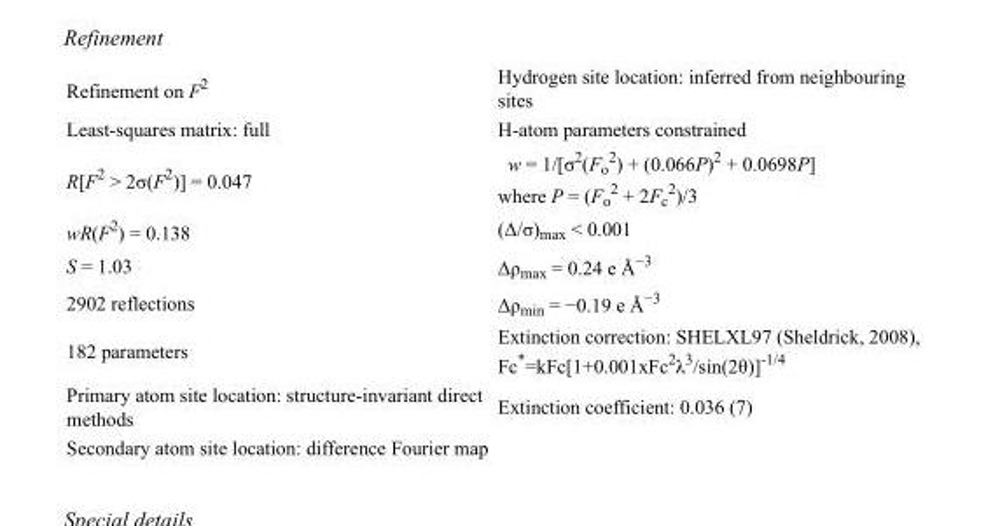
<table><tbody><tr><td>Refinement on F<sup>2</sup></td><td>Hydrogen site location: inferred from neighbouring sites</td></tr><tr><td>Least-squares matrix: full</td><td>H-atom parameters constrained</td></tr><tr><td>R[F<sup>2</sup> &gt; 2σ(F<sup>2</sup>)] = 0.047</td><td>w = 1/[σ<sup>2</sup>(F<sub>o</sub> <sup>2</sup>) + (0.066P)<sup>2</sup> + 0.0698P] where P = (F<sub>o</sub> <sup>2</sup> + 2F<sub>c</sub> <sup>2</sup>)/3</td></tr><tr><td>wR(F<sup>2</sup>) = 0.138</td><td>(Δ/σ)<sub>max</sub> &lt; 0.001</td></tr><tr><td>S = 1.03</td><td>Δρ<sub>max</sub> = 0.24 e Å<sup>−3</sup></td></tr><tr><td>2902 reflections</td><td>Δρ<sub>min</sub> = −0.19 e Å<sup>−3</sup></td></tr><tr><td>182 parameters</td><td>Extinction correction: SHELXL97 (Sheldrick, 2008), Fc*=kFc[1+0.001xFc<sup>2</sup>λ<sup>3</sup>/sin(2θ)]<sup>-1/4</sup></td></tr><tr><td>Primary atom site location: structure-invariant direct methods</td><td>Extinction coefficient: 0.036 (7)</td></tr><tr><td>Secondary atom site location: difference Fourier map</td><td></td></tr></tbody></table>